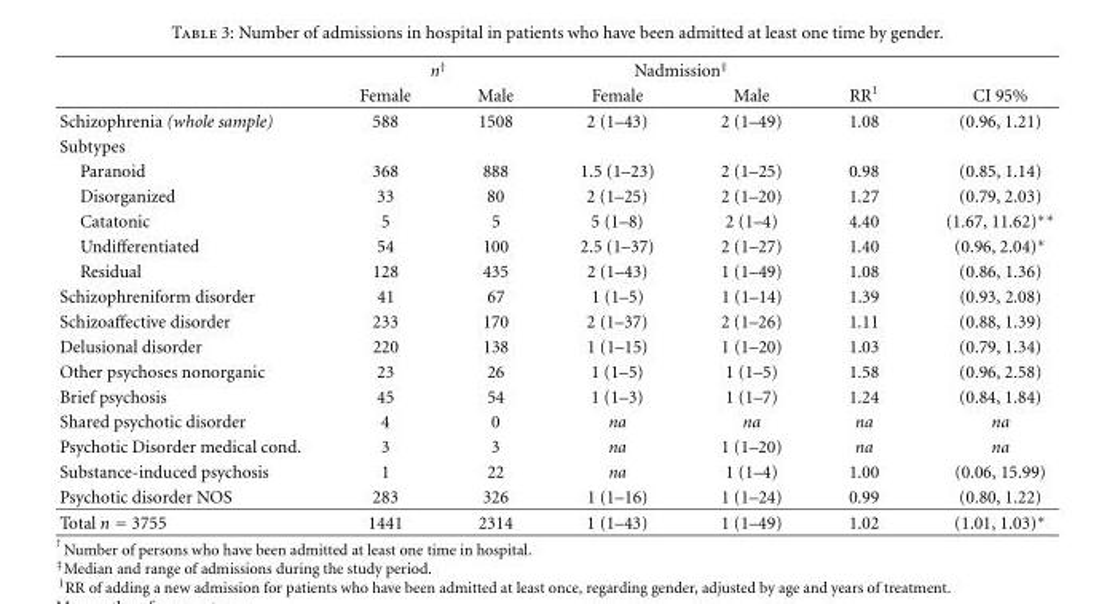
<table><thead><tr><td rowspan="2"></td><td colspan="2">n<sup>†</sup></td><td colspan="2">Nadmission<sup>‡</sup></td><td rowspan="2">RR<sup>1</sup></td><td rowspan="2">CI 95%</td></tr><tr><td>Female</td><td>Male</td><td>Female</td><td>Male</td></tr></thead><tbody><tr><td>Schizophrenia (whole sample)</td><td>588</td><td>1508</td><td>2 (1–43)</td><td>2 (1–49)</td><td>1.08</td><td>(0.96, 1.21)</td></tr><tr><td colspan="7">Subtypes</td></tr><tr><td>Paranoid</td><td>368</td><td>888</td><td>1.5 (1–23)</td><td>2 (1–25)</td><td>0.98</td><td>(0.85, 1.14)</td></tr><tr><td>Disorganized</td><td>33</td><td>80</td><td>2 (1–25)</td><td>2 (1–20)</td><td>1.27</td><td>(0.79, 2.03)</td></tr><tr><td>Catatonic</td><td>5</td><td>5</td><td>5 (1–8)</td><td>2 (1–4)</td><td>4.40</td><td>(1.67, 11.62)∗∗</td></tr><tr><td>Undifferentiated</td><td>54</td><td>100</td><td>2.5 (1–37)</td><td>2 (1–27)</td><td>1.40</td><td>(0.96, 2.04)∗</td></tr><tr><td>Residual</td><td>128</td><td>435</td><td>2 (1–43)</td><td>1 (1–49)</td><td>1.08</td><td>(0.86, 1.36)</td></tr><tr><td>Schizophreniform disorder</td><td>41</td><td>67</td><td>1 (1–5)</td><td>1 (1–14)</td><td>1.39</td><td>(0.93, 2.08)</td></tr><tr><td>Schizoaffective disorder</td><td>233</td><td>170</td><td>2 (1–37)</td><td>2 (1–26)</td><td>1.11</td><td>(0.88, 1.39)</td></tr><tr><td>Delusional disorder</td><td>220</td><td>138</td><td>1 (1–15)</td><td>1 (1–20)</td><td>1.03</td><td>(0.79, 1.34)</td></tr><tr><td>Other psychoses nonorganic</td><td>23</td><td>26</td><td>1 (1–5)</td><td>1 (1–5)</td><td>1.58</td><td>(0.96, 2.58)</td></tr><tr><td>Brief psychosis</td><td>45</td><td>54</td><td>1 (1–3)</td><td>1 (1–7)</td><td>1.24</td><td>(0.84, 1.84)</td></tr><tr><td>Shared psychotic disorder</td><td>4</td><td>0</td><td>na</td><td>na</td><td>na</td><td>na</td></tr><tr><td>Psychotic Disorder medical cond.</td><td>3</td><td>3</td><td>na</td><td>1 (1–20)</td><td>na</td><td>na</td></tr><tr><td>Substance-induced psychosis</td><td>1</td><td>22</td><td>na</td><td>1 (1–4)</td><td>1.00</td><td>(0.06, 15.99)</td></tr><tr><td>Psychotic disorder NOS</td><td>283</td><td>326</td><td>1 (1–16)</td><td>1 (1–24)</td><td>0.99</td><td>(0.80, 1.22)</td></tr><tr><td>Total n = 3755</td><td>1441</td><td>2314</td><td>1 (1–43)</td><td>1 (1–49)</td><td>1.02</td><td>(1.01, 1.03)∗</td></tr></tbody></table>